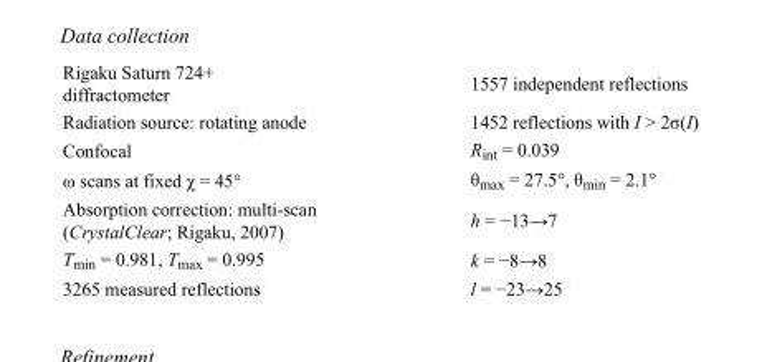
<table><tbody><tr><td>Rigaku Saturn 724+ diffractometer</td><td>1557 independent reflections</td></tr><tr><td>Radiation source: rotating anode</td><td>1452 reflections with I &gt; 2σ(I)</td></tr><tr><td>Confocal</td><td>R<sub>int</sub> = 0.039</td></tr><tr><td>ω scans at fixed χ = 45°</td><td>θ<sub>max</sub> = 27.5°, θ<sub>min</sub> = 2.1°</td></tr><tr><td>Absorption correction: multi-scan (CrystalClear; Rigaku, 2007)</td><td>h = −13→7</td></tr><tr><td>T<sub>min</sub> = 0.981, T<sub>max</sub> = 0.995</td><td>k = −8→8</td></tr><tr><td>3265 measured reflections</td><td>l = −23→25</td></tr></tbody></table>